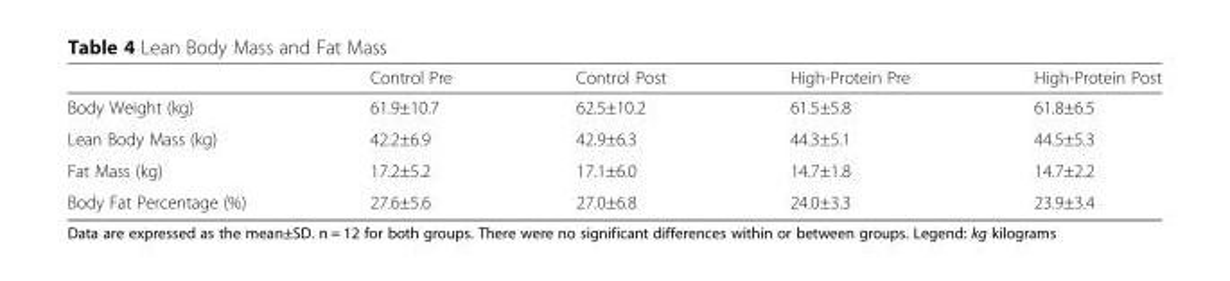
<table><thead><tr><td></td><td>Control Pre</td><td>Control Post</td><td>High-Protein Pre</td><td>High-Protein Post</td></tr></thead><tbody><tr><td>Body Weight (kg)</td><td>61.9±10.7</td><td>62.5±10.2</td><td>61.5±5.8</td><td>61.8±6.5</td></tr><tr><td>Lean Body Mass (kg)</td><td>42.2±6.9</td><td>42.9±6.3</td><td>44.3±5.1</td><td>44.5±5.3</td></tr><tr><td>Fat Mass (kg)</td><td>17.2±5.2</td><td>17.1±6.0</td><td>14.7±1.8</td><td>14.7±2.2</td></tr><tr><td>Body Fat Percentage (%)</td><td>27.6±5.6</td><td>27.0±6.8</td><td>24.0±3.3</td><td>23.9±3.4</td></tr></tbody></table>